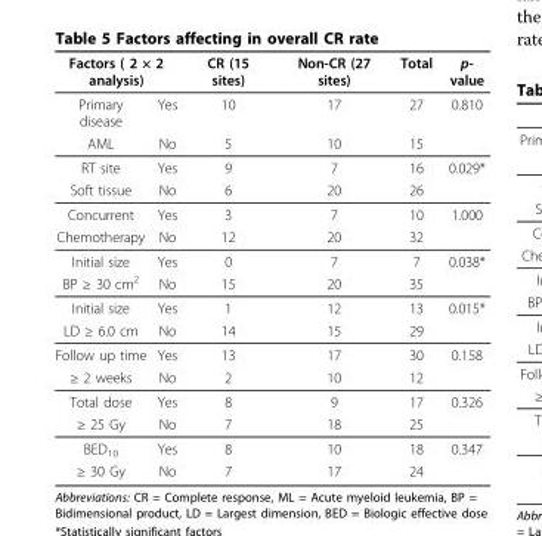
<table><thead><tr><td colspan="2">Factors ( 2 × 2 analysis)</td><td rowspan="2">CR (15 sites) 10</td><td rowspan="2">Non-CR (27 sites) 17</td><td rowspan="2">Total 27</td><td rowspan="2">p- value 0.810</td></tr><tr><td>Primary disease</td><td>Yes</td></tr></thead><tbody><tr><td>AML</td><td>No</td><td>5</td><td>10</td><td>15</td><td></td></tr><tr><td>RT site</td><td>Yes</td><td>9</td><td>7</td><td>16</td><td>0.029*</td></tr><tr><td>Soft tissue</td><td>No</td><td>6</td><td>20</td><td>26</td><td></td></tr><tr><td>Concurrent</td><td>Yes</td><td>3</td><td>7</td><td>10</td><td>1.000</td></tr><tr><td>Chemotherapy</td><td>No</td><td>12</td><td>20</td><td>32</td><td></td></tr><tr><td>Initial size</td><td>Yes</td><td>0</td><td>7</td><td>7</td><td>0.038*</td></tr><tr><td>BP ≥ 30 cm<sup>2</sup></td><td>No</td><td>15</td><td>20</td><td>35</td><td></td></tr><tr><td>Initial size</td><td>Yes</td><td>1</td><td>12</td><td>13</td><td>0.015*</td></tr><tr><td>LD ≥ 6.0 cm</td><td>No</td><td>14</td><td>15</td><td>29</td><td></td></tr><tr><td>Follow up time</td><td>Yes</td><td>13</td><td>17</td><td>30</td><td>0.158</td></tr><tr><td>≥ 2 weeks</td><td>No</td><td>2</td><td>10</td><td>12</td><td></td></tr><tr><td>Total dose</td><td>Yes</td><td>8</td><td>9</td><td>17</td><td>0.326</td></tr><tr><td>≥ 25 Gy</td><td>No</td><td>7</td><td>18</td><td>25</td><td></td></tr><tr><td>BED<sub>10</sub></td><td>Yes</td><td>8</td><td>10</td><td>18</td><td>0.347</td></tr><tr><td>≥ 30 Gy</td><td>No</td><td>7</td><td>17</td><td>24</td><td></td></tr></tbody></table>